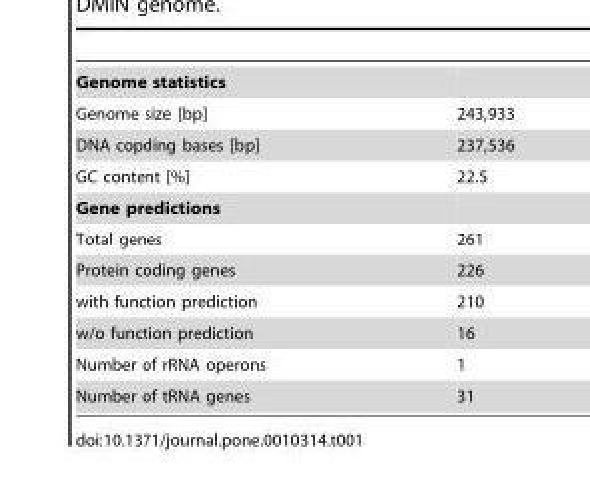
<table><tbody><tr><td colspan="2">Genome statistics</td></tr><tr><td>Genome size [bp]</td><td>243,933</td></tr><tr><td>DNA copding bases [bp]</td><td>237,536</td></tr><tr><td>GC content [%]</td><td>22.5</td></tr><tr><td colspan="2">Gene predictions</td></tr><tr><td>Total genes</td><td>261</td></tr><tr><td>Protein coding genes</td><td>226</td></tr><tr><td>with function prediction</td><td>210</td></tr><tr><td>w/o function prediction</td><td>16</td></tr><tr><td>Number of rRNA operons</td><td>1</td></tr><tr><td>Number of tRNA genes</td><td>31</td></tr></tbody></table>